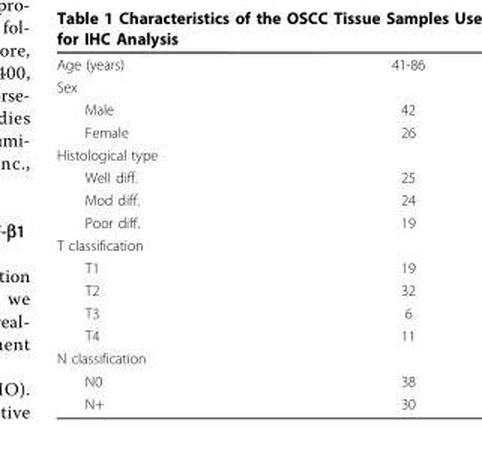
<table><tbody><tr><td>Age (years)</td><td>41-86</td></tr><tr><td colspan="2">Sex</td></tr><tr><td>Male</td><td>42</td></tr><tr><td>Female</td><td>26</td></tr><tr><td colspan="2">Histological type</td></tr><tr><td>Well diff.</td><td>25</td></tr><tr><td>Mod diff.</td><td>24</td></tr><tr><td>Poor diff.</td><td>19</td></tr><tr><td colspan="2">T classification</td></tr><tr><td>T1</td><td>19</td></tr><tr><td>T2</td><td>32</td></tr><tr><td>T3</td><td>6</td></tr><tr><td>T4</td><td>11</td></tr><tr><td colspan="2">N classification</td></tr><tr><td>N0</td><td>38</td></tr><tr><td>N+</td><td>30</td></tr></tbody></table>